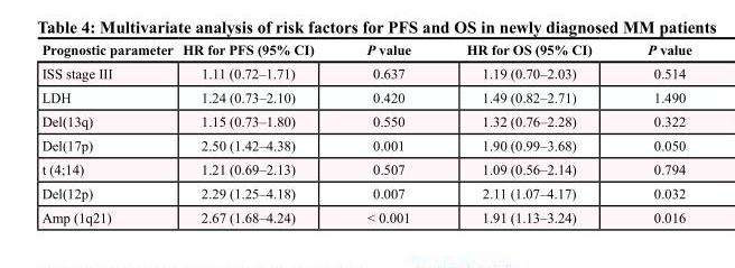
<table><thead><tr><td>Prognostic parameter</td><td>HR for PFS (95% CI)</td><td>P value</td><td>HR for OS (95% CI)</td><td>P value</td></tr></thead><tbody><tr><td>ISS stage III</td><td>1.11 (0.72–1.71)</td><td>0.637</td><td>1.19 (0.70–2.03)</td><td>0.514</td></tr><tr><td>LDH</td><td>1.24 (0.73–2.10)</td><td>0.420</td><td>1.49 (0.82–2.71)</td><td>1.490</td></tr><tr><td>Del(13q)</td><td>1.15 (0.73–1.80)</td><td>0.550</td><td>1.32 (0.76–2.28)</td><td>0.322</td></tr><tr><td>Del(17p)</td><td>2.50 (1.42–4.38)</td><td>0.001</td><td>1.90 (0.99–3.68)</td><td>0.050</td></tr><tr><td>t (4;14)</td><td>1.21 (0.69–2.13)</td><td>0.507</td><td>1.09 (0.56–2.14)</td><td>0.794</td></tr><tr><td>Del(12p)</td><td>2.29 (1.25–4.18)</td><td>0.007</td><td>2.11 (1.07–4.17)</td><td>0.032</td></tr><tr><td>Amp (1q21)</td><td>2.67 (1.68–4.24)</td><td>&lt; 0.001</td><td>1.91 (1.13–3.24)</td><td>0.016</td></tr></tbody></table>